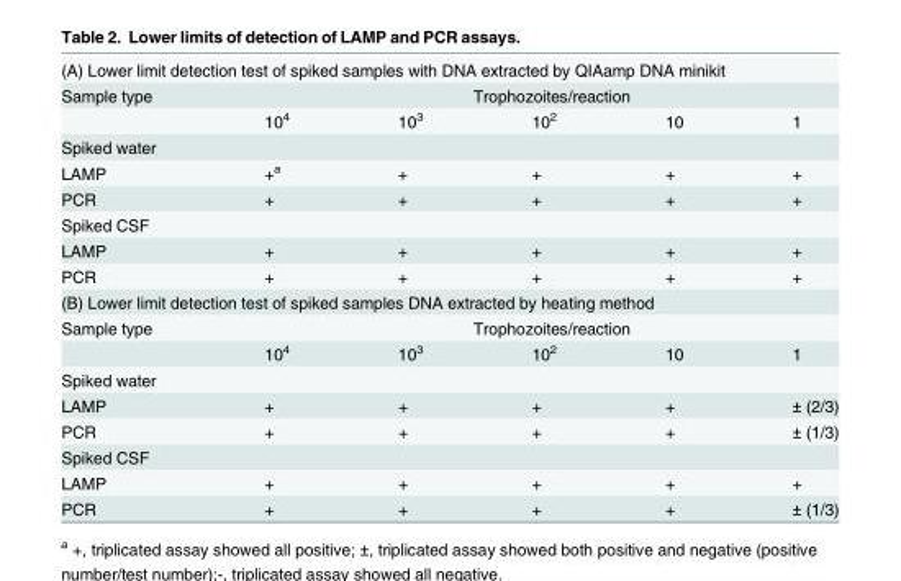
<table><tbody><tr><td colspan="6">(A) Lower limit detection test of spiked samples with DNA extracted by QIAamp DNA minikit</td></tr><tr><td rowspan="2">Sample type</td><td colspan="5">Trophozoites/reaction</td></tr><tr><td>10<sup>4</sup></td><td>10<sup>3</sup></td><td>10<sup>2</sup></td><td>10</td><td>1</td></tr><tr><td colspan="6">Spiked water</td></tr><tr><td>LAMP</td><td>+<sup>a</sup></td><td>+</td><td>+</td><td>+</td><td>+</td></tr><tr><td>PCR</td><td>+</td><td>+</td><td>+</td><td>+</td><td>+</td></tr><tr><td colspan="6">Spiked CSF</td></tr><tr><td>LAMP</td><td>+</td><td>+</td><td>+</td><td>+</td><td>+</td></tr><tr><td>PCR</td><td>+</td><td>+</td><td>+</td><td>+</td><td>+</td></tr><tr><td colspan="6">(B) Lower limit detection test of spiked samples DNA extracted by heating method</td></tr><tr><td rowspan="2">Sample type</td><td colspan="5">Trophozoites/reaction</td></tr><tr><td>10<sup>4</sup></td><td>10<sup>3</sup></td><td>10<sup>2</sup></td><td>10</td><td>1</td></tr><tr><td colspan="6">Spiked water</td></tr><tr><td>LAMP</td><td>+</td><td>+</td><td>+</td><td>+</td><td>± (2/3)</td></tr><tr><td>PCR</td><td>+</td><td>+</td><td>+</td><td>+</td><td>± (1/3)</td></tr><tr><td colspan="6">Spiked CSF</td></tr><tr><td>LAMP</td><td>+</td><td>+</td><td>+</td><td>+</td><td>+</td></tr><tr><td>PCR</td><td>+</td><td>+</td><td>+</td><td>+</td><td>± (1/3)</td></tr></tbody></table>